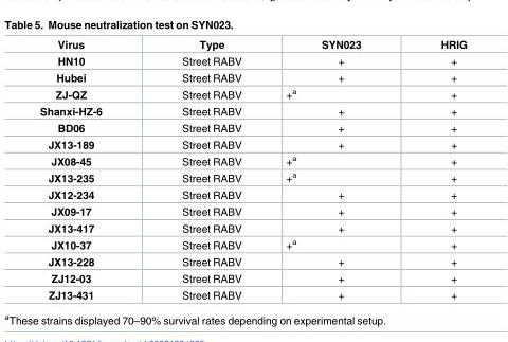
<table><thead><tr><td>Virus</td><td>Type</td><td>SYN023</td><td>HRIG</td></tr></thead><tbody><tr><td>HN10</td><td>Street RABV</td><td>+</td><td>+</td></tr><tr><td>Hubei</td><td>Street RABV</td><td>+</td><td>+</td></tr><tr><td>ZJ-QZ</td><td>Street RABV</td><td>+<sup>a</sup></td><td>+</td></tr><tr><td>Shanxi-HZ-6</td><td>Street RABV</td><td>+</td><td>+</td></tr><tr><td>BD06</td><td>Street RABV</td><td>+</td><td>+</td></tr><tr><td>JX13-189</td><td>Street RABV</td><td>+</td><td>+</td></tr><tr><td>JX08-45</td><td>Street RABV</td><td>+<sup>a</sup></td><td>+</td></tr><tr><td>JX13-235</td><td>Street RABV</td><td>+<sup>a</sup></td><td>+</td></tr><tr><td>JX12-234</td><td>Street RABV</td><td>+</td><td>+</td></tr><tr><td>JX09-17</td><td>Street RABV</td><td>+</td><td>+</td></tr><tr><td>JX13-417</td><td>Street RABV</td><td>+</td><td>+</td></tr><tr><td>JX10-37</td><td>Street RABV</td><td>+<sup>a</sup></td><td>+</td></tr><tr><td>JX13-228</td><td>Street RABV</td><td>+</td><td>+</td></tr><tr><td>ZJ12-03</td><td>Street RABV</td><td>+</td><td>+</td></tr><tr><td>ZJ13-431</td><td>Street RABV</td><td>+</td><td>+</td></tr></tbody></table>